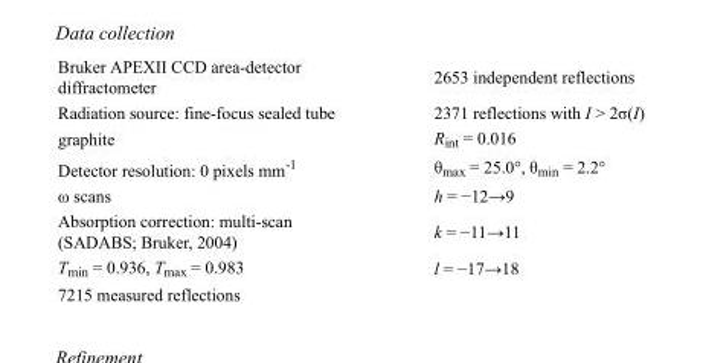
<table><tbody><tr><td>Bruker APEXII CCD area-detector diffractometer</td><td>2653 independent reflections</td></tr><tr><td>Radiation source: fine-focus sealed tube</td><td>2371 reflections with I &gt; 2σ(I)</td></tr><tr><td>graphite</td><td>R<sub>int</sub> = 0.016</td></tr><tr><td>Detector resolution: 0 pixels mm<sup>-1</sup></td><td>θ<sub>max</sub> = 25.0°, θ<sub>min</sub> = 2.2°</td></tr><tr><td>ω scans</td><td>h = −12→9</td></tr><tr><td>Absorption correction: multi-scan (SADABS; Bruker, 2004)</td><td>k = −11→11</td></tr><tr><td>T<sub>min</sub> = 0.936, T<sub>max</sub> = 0.983</td><td>l = −17→18</td></tr><tr><td>7215 measured reflections</td><td></td></tr></tbody></table>